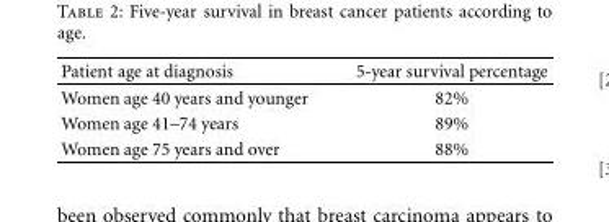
<table><thead><tr><td>Patient age at diagnosis</td><td>5-year survival percentage</td></tr></thead><tbody><tr><td>Women age 40 years and younger</td><td>82%</td></tr><tr><td>Women age 41–74 years</td><td>89%</td></tr><tr><td>Women age 75 years and over</td><td>88%</td></tr></tbody></table>